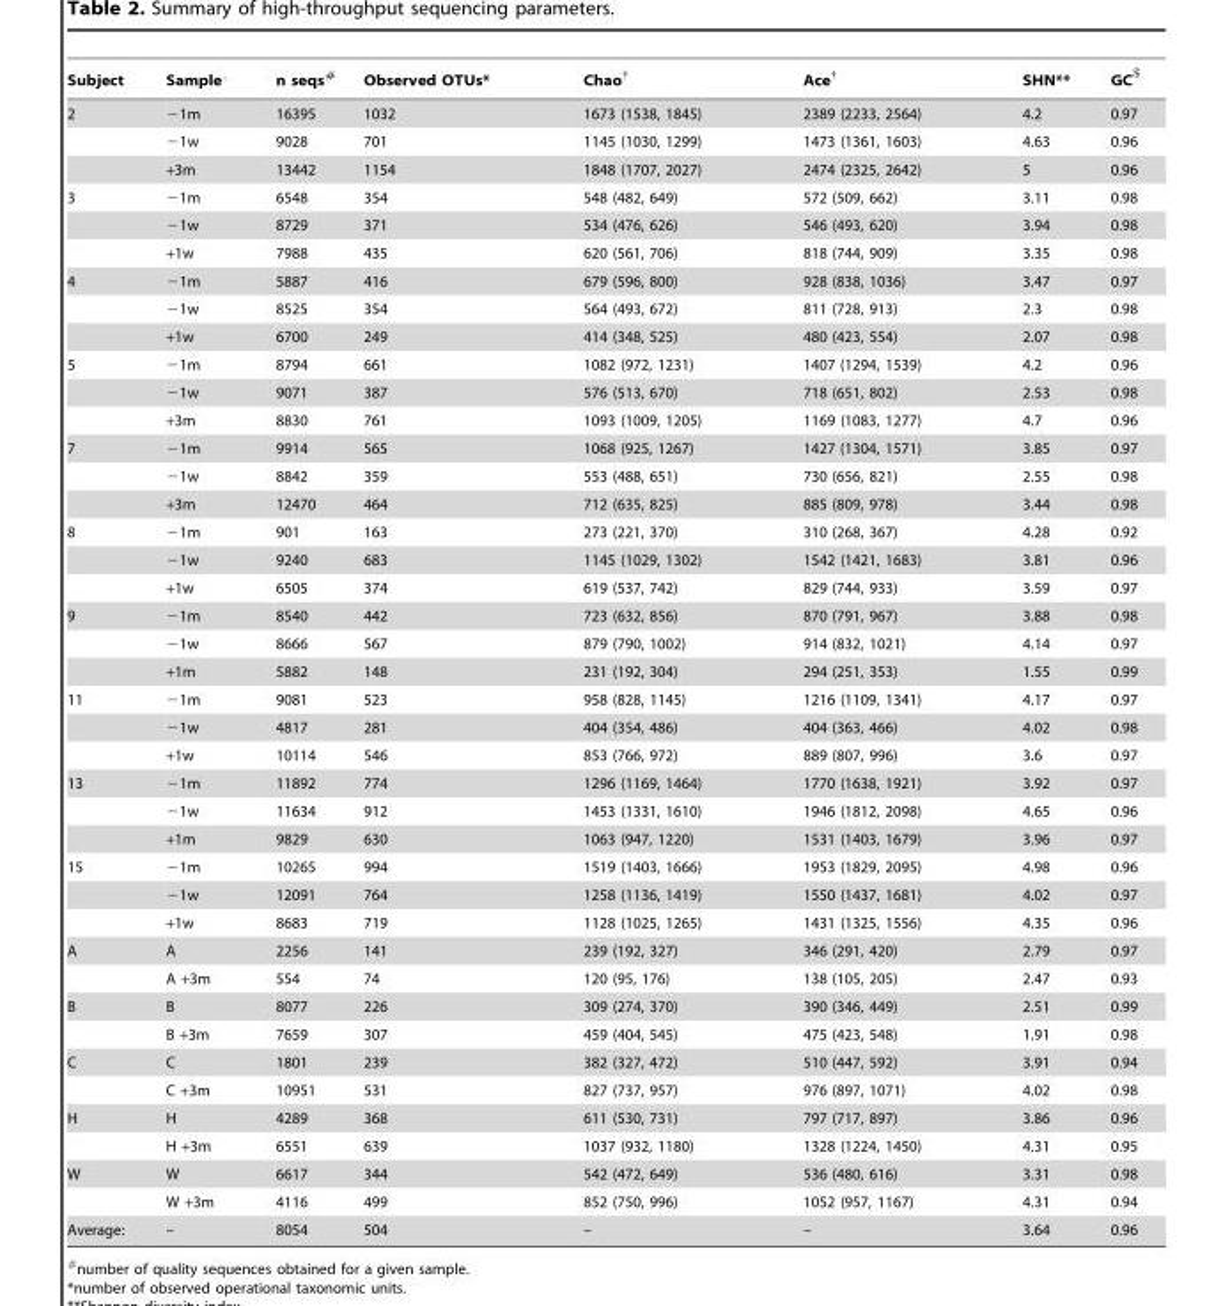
<table><thead><tr><td>Subject</td><td>Sample‘</td><td>n seqs#</td><td>Observed OTUs*</td><td>Chao†</td><td>Ace†</td><td>SHN**</td><td>GC$</td></tr></thead><tbody><tr><td rowspan="3">2</td><td>−1m</td><td>16395</td><td>1032</td><td>1673 (1538, 1845)</td><td>2389 (2233, 2564)</td><td>4.2</td><td>0.97</td></tr><tr><td>−1w</td><td>9028</td><td>701</td><td>1145 (1030, 1299)</td><td>1473 (1361, 1603)</td><td>4.63</td><td>0.96</td></tr><tr><td>+3m</td><td>13442</td><td>1154</td><td>1848 (1707, 2027)</td><td>2474 (2325, 2642)</td><td>5</td><td>0.96</td></tr><tr><td rowspan="3">3</td><td>−1m</td><td>6548</td><td>354</td><td>548 (482, 649)</td><td>572 (509, 662)</td><td>3.11</td><td>0.98</td></tr><tr><td>−1w</td><td>8729</td><td>371</td><td>534 (476, 626)</td><td>546 (493, 620)</td><td>3.94</td><td>0.98</td></tr><tr><td>+1w</td><td>7988</td><td>435</td><td>620 (561, 706)</td><td>818 (744, 909)</td><td>3.35</td><td>0.98</td></tr><tr><td rowspan="3">4</td><td>−1m</td><td>5887</td><td>416</td><td>679 (596, 800)</td><td>928 (838, 1036)</td><td>3.47</td><td>0.97</td></tr><tr><td>−1w</td><td>8525</td><td>354</td><td>564 (493, 672)</td><td>811 (728, 913)</td><td>2.3</td><td>0.98</td></tr><tr><td>+1w</td><td>6700</td><td>249</td><td>414 (348, 525)</td><td>480 (423, 554)</td><td>2.07</td><td>0.98</td></tr><tr><td rowspan="3">5</td><td>−1m</td><td>8794</td><td>661</td><td>1082 (972, 1231)</td><td>1407 (1294, 1539)</td><td>4.2</td><td>0.96</td></tr><tr><td>−1w</td><td>9071</td><td>387</td><td>576 (513, 670)</td><td>718 (651, 802)</td><td>2.53</td><td>0.98</td></tr><tr><td>+3m</td><td>8830</td><td>761</td><td>1093 (1009, 1205)</td><td>1169 (1083, 1277)</td><td>4.7</td><td>0.96</td></tr><tr><td rowspan="3">7</td><td>−1m</td><td>9914</td><td>565</td><td>1068 (925, 1267)</td><td>1427 (1304, 1571)</td><td>3.85</td><td>0.97</td></tr><tr><td>−1w</td><td>8842</td><td>359</td><td>553 (488, 651)</td><td>730 (656, 821)</td><td>2.55</td><td>0.98</td></tr><tr><td>+3m</td><td>12470</td><td>464</td><td>712 (635, 825)</td><td>885 (809, 978)</td><td>3.44</td><td>0.98</td></tr><tr><td rowspan="3">8</td><td>−1m</td><td>901</td><td>163</td><td>273 (221, 370)</td><td>310 (268, 367)</td><td>4.28</td><td>0.92</td></tr><tr><td>−1w</td><td>9240</td><td>683</td><td>1145 (1029, 1302)</td><td>1542 (1421, 1683)</td><td>3.81</td><td>0.96</td></tr><tr><td>+1w</td><td>6505</td><td>374</td><td>619 (537, 742)</td><td>829 (744, 933)</td><td>3.59</td><td>0.97</td></tr><tr><td rowspan="3">9</td><td>−1m</td><td>8540</td><td>442</td><td>723 (632, 856)</td><td>870 (791, 967)</td><td>3.88</td><td>0.98</td></tr><tr><td>−1w</td><td>8666</td><td>567</td><td>879 (790, 1002)</td><td>914 (832, 1021)</td><td>4.14</td><td>0.97</td></tr><tr><td>+1m</td><td>5882</td><td>148</td><td>231 (192, 304)</td><td>294 (251, 353)</td><td>1.55</td><td>0.99</td></tr><tr><td rowspan="3">11</td><td>−1m</td><td>9081</td><td>523</td><td>958 (828, 1145)</td><td>1216 (1109, 1341)</td><td>4.17</td><td>0.97</td></tr><tr><td>−1w</td><td>4817</td><td>281</td><td>404 (354, 486)</td><td>404 (363, 466)</td><td>4.02</td><td>0.98</td></tr><tr><td>+1w</td><td>10114</td><td>546</td><td>853 (766, 972)</td><td>889 (807, 996)</td><td>3.6</td><td>0.97</td></tr><tr><td rowspan="3">13</td><td>−1m</td><td>11892</td><td>774</td><td>1296 (1169, 1464)</td><td>1770 (1638, 1921)</td><td>3.92</td><td>0.97</td></tr><tr><td>−1w</td><td>11634</td><td>912</td><td>1453 (1331, 1610)</td><td>1946 (1812, 2098)</td><td>4.65</td><td>0.96</td></tr><tr><td>+1m</td><td>9829</td><td>630</td><td>1063 (947, 1220)</td><td>1531 (1403, 1679)</td><td>3.96</td><td>0.97</td></tr><tr><td rowspan="3">15</td><td>−1m</td><td>10265</td><td>994</td><td>1519 (1403, 1666)</td><td>1953 (1829, 2095)</td><td>4.98</td><td>0.96</td></tr><tr><td>−1w</td><td>12091</td><td>764</td><td>1258 (1136, 1419)</td><td>1550 (1437, 1681)</td><td>4.02</td><td>0.97</td></tr><tr><td>+1w</td><td>8683</td><td>719</td><td>1128 (1025, 1265)</td><td>1431 (1325, 1556)</td><td>4.35</td><td>0.96</td></tr><tr><td rowspan="2">A</td><td>A</td><td>2256</td><td>141</td><td>239 (192, 327)</td><td>346 (291, 420)</td><td>2.79</td><td>0.97</td></tr><tr><td>A +3m</td><td>554</td><td>74</td><td>120 (95, 176)</td><td>138 (105, 205)</td><td>2.47</td><td>0.93</td></tr><tr><td rowspan="2">B</td><td>B</td><td>8077</td><td>226</td><td>309 (274, 370)</td><td>390 (346, 449)</td><td>2.51</td><td>0.99</td></tr><tr><td>B +3m</td><td>7659</td><td>307</td><td>459 (404, 545)</td><td>475 (423, 548)</td><td>1.91</td><td>0.98</td></tr><tr><td rowspan="2">C</td><td>C</td><td>1801</td><td>239</td><td>382 (327, 472)</td><td>510 (447, 592)</td><td>3.91</td><td>0.94</td></tr><tr><td>C +3m</td><td>10951</td><td>531</td><td>827 (737, 957)</td><td>976 (897, 1071)</td><td>4.02</td><td>0.98</td></tr><tr><td rowspan="2">H</td><td>H</td><td>4289</td><td>368</td><td>611 (530, 731)</td><td>797 (717, 897)</td><td>3.86</td><td>0.96</td></tr><tr><td>H +3m</td><td>6551</td><td>639</td><td>1037 (932, 1180)</td><td>1328 (1224, 1450)</td><td>4.31</td><td>0.95</td></tr><tr><td rowspan="2">W</td><td>W</td><td>6617</td><td>344</td><td>542 (472, 649)</td><td>536 (480, 616)</td><td>3.31</td><td>0.98</td></tr><tr><td>W +3m</td><td>4116</td><td>499</td><td>852 (750, 996)</td><td>1052 (957, 1167)</td><td>4.31</td><td>0.94</td></tr><tr><td>Average:</td><td>–</td><td>8054</td><td>504</td><td>–</td><td>–</td><td>3.64</td><td>0.96</td></tr></tbody></table>